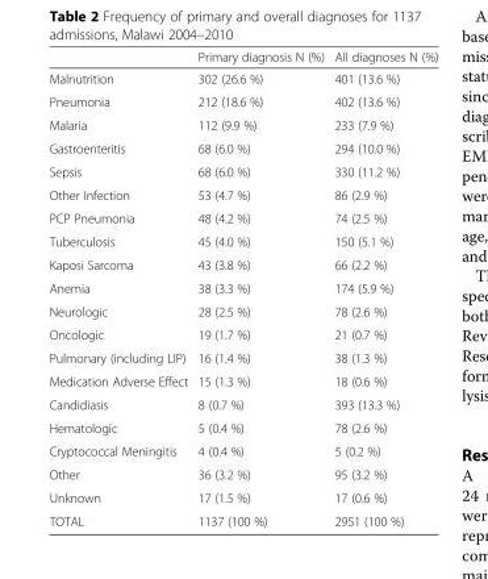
<table><thead><tr><td></td><td>Primary diagnosis N (%)</td><td>All diagnoses N (%)</td></tr></thead><tbody><tr><td>Malnutrition</td><td>302 (26.6 %)</td><td>401 (13.6 %)</td></tr><tr><td>Pneumonia</td><td>212 (18.6 %)</td><td>402 (13.6 %)</td></tr><tr><td>Malaria</td><td>112 (9.9 %)</td><td>233 (7.9 %)</td></tr><tr><td>Gastroenteritis</td><td>68 (6.0 %)</td><td>294 (10.0 %)</td></tr><tr><td>Sepsis</td><td>68 (6.0 %)</td><td>330 (11.2 %)</td></tr><tr><td>Other Infection</td><td>53 (4.7 %)</td><td>86 (2.9 %)</td></tr><tr><td>PCP Pneumonia</td><td>48 (4.2 %)</td><td>74 (2.5 %)</td></tr><tr><td>Tuberculosis</td><td>45 (4.0 %)</td><td>150 (5.1 %)</td></tr><tr><td>Kaposi Sarcoma</td><td>43 (3.8 %)</td><td>66 (2.2 %)</td></tr><tr><td>Anemia</td><td>38 (3.3 %)</td><td>174 (5.9 %)</td></tr><tr><td>Neurologic</td><td>28 (2.5 %)</td><td>78 (2.6 %)</td></tr><tr><td>Oncologic</td><td>19 (1.7 %)</td><td>21 (0.7 %)</td></tr><tr><td>Pulmonary (including LIP)</td><td>16 (1.4 %)</td><td>38 (1.3 %)</td></tr><tr><td>Medication Adverse Effect</td><td>15 (1.3 %)</td><td>18 (0.6 %)</td></tr><tr><td>Candidiasis</td><td>8 (0.7 %)</td><td>393 (13.3 %)</td></tr><tr><td>Hematologic</td><td>5 (0.4 %)</td><td>78 (2.6 %)</td></tr><tr><td>Cryptococcal Meningitis</td><td>4 (0.4 %)</td><td>5 (0.2 %)</td></tr><tr><td>Other</td><td>36 (3.2 %)</td><td>95 (3.2 %)</td></tr><tr><td>Unknown</td><td>17 (1.5 %)</td><td>17 (0.6 %)</td></tr><tr><td>TOTAL</td><td>1137 (100 %)</td><td>2951 (100 %)</td></tr></tbody></table>